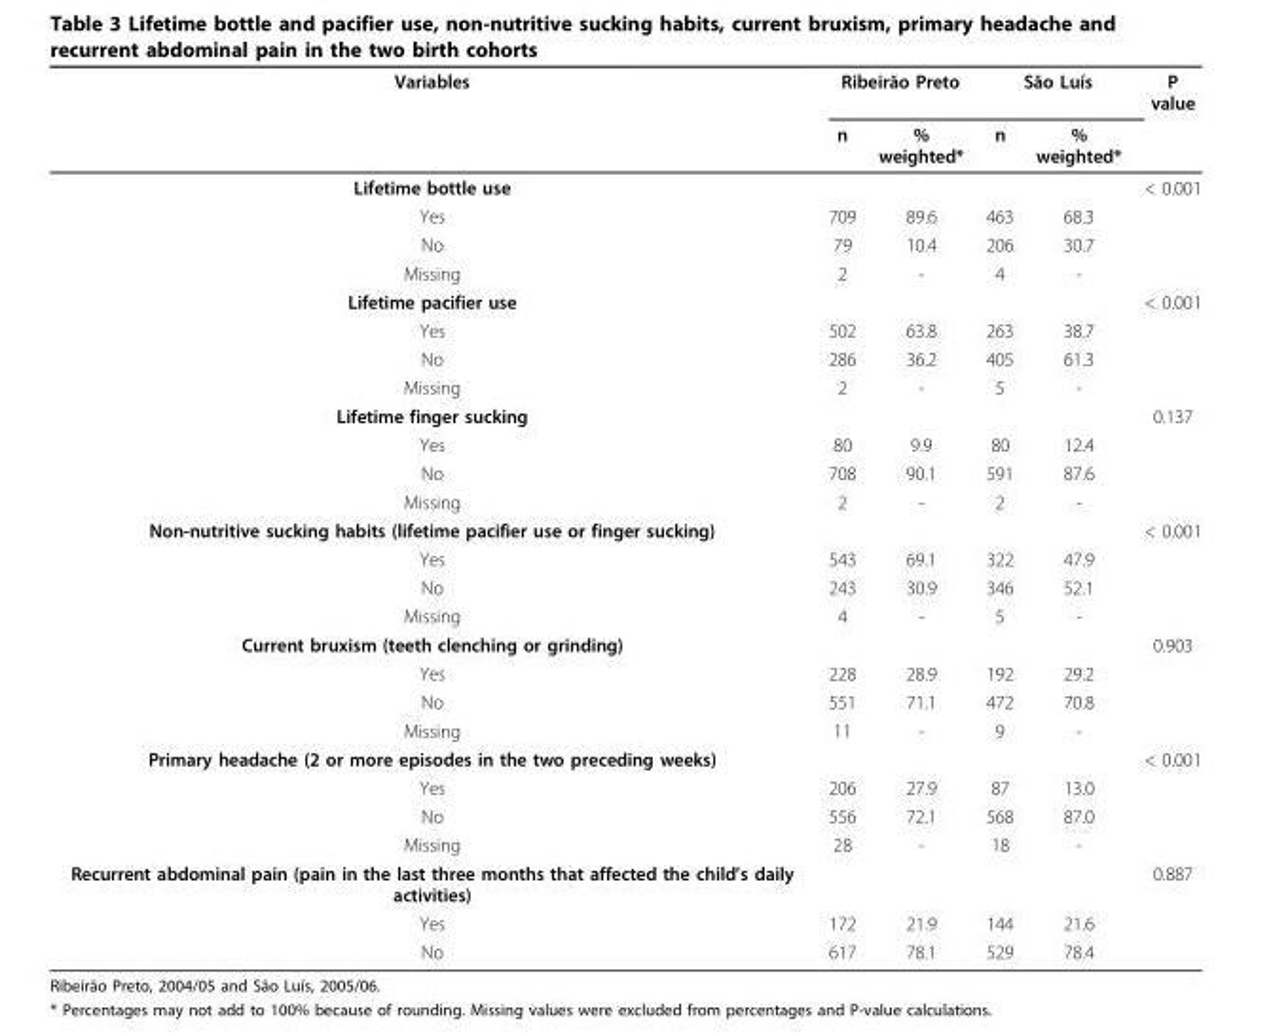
<table><thead><tr><td rowspan="2">Variables</td><td colspan="2">Ribeirão Preto</td><td colspan="2">São Luís</td><td rowspan="2">P value</td></tr><tr><td>n</td><td>% weighted*</td><td>n</td><td>% weighted*</td></tr></thead><tbody><tr><td>Lifetime bottle use</td><td></td><td></td><td></td><td></td><td>&lt; 0.001</td></tr><tr><td>Yes</td><td>709</td><td>89.6</td><td>463</td><td>68.3</td><td></td></tr><tr><td>No</td><td>79</td><td>10.4</td><td>206</td><td>30.7</td><td></td></tr><tr><td>Missing</td><td>2</td><td>-</td><td>4</td><td>-</td><td></td></tr><tr><td>Lifetime pacifier use</td><td></td><td></td><td></td><td></td><td>&lt; 0.001</td></tr><tr><td>Yes</td><td>502</td><td>63.8</td><td>263</td><td>38.7</td><td></td></tr><tr><td>No</td><td>286</td><td>36.2</td><td>405</td><td>61.3</td><td></td></tr><tr><td>Missing</td><td>2</td><td>-</td><td>5</td><td>-</td><td></td></tr><tr><td>Lifetime finger sucking</td><td></td><td></td><td></td><td></td><td>0.137</td></tr><tr><td>Yes</td><td>80</td><td>9.9</td><td>80</td><td>12.4</td><td></td></tr><tr><td>No</td><td>708</td><td>90.1</td><td>591</td><td>87.6</td><td></td></tr><tr><td>Missing</td><td>2</td><td>-</td><td>2</td><td>-</td><td></td></tr><tr><td>Non-nutritive sucking habits (lifetime pacifier use or finger sucking)</td><td></td><td></td><td></td><td></td><td>&lt; 0.001</td></tr><tr><td>Yes</td><td>543</td><td>69.1</td><td>322</td><td>47.9</td><td></td></tr><tr><td>No</td><td>243</td><td>30.9</td><td>346</td><td>52.1</td><td></td></tr><tr><td>Missing</td><td>4</td><td>-</td><td>5</td><td>-</td><td></td></tr><tr><td>Current bruxism (teeth clenching or grinding)</td><td></td><td></td><td></td><td></td><td>0.903</td></tr><tr><td>Yes</td><td>228</td><td>28.9</td><td>192</td><td>29.2</td><td></td></tr><tr><td>No</td><td>551</td><td>71.1</td><td>472</td><td>70.8</td><td></td></tr><tr><td>Missing</td><td>11</td><td>-</td><td>9</td><td>-</td><td></td></tr><tr><td>Primary headache (2 or more episodes in the two preceding weeks)</td><td></td><td></td><td></td><td></td><td>&lt; 0.001</td></tr><tr><td>Yes</td><td>206</td><td>27.9</td><td>87</td><td>13.0</td><td></td></tr><tr><td>No</td><td>556</td><td>72.1</td><td>568</td><td>87.0</td><td></td></tr><tr><td>Missing</td><td>28</td><td>-</td><td>18</td><td>-</td><td></td></tr><tr><td>Recurrent abdominal pain (pain in the last three months that affected the child’s daily activities)</td><td></td><td></td><td></td><td></td><td>0.887</td></tr><tr><td>Yes</td><td>172</td><td>21.9</td><td>144</td><td>21.6</td><td></td></tr><tr><td>No</td><td>617</td><td>78.1</td><td>529</td><td>78.4</td><td></td></tr></tbody></table>